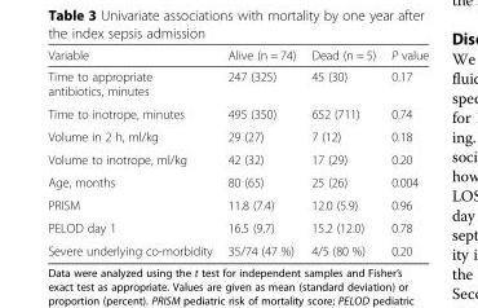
<table><thead><tr><td>Variable</td><td>Alive (n = 74)</td><td>Dead (n = 5)</td><td>P value</td></tr></thead><tbody><tr><td>Time to appropriate antibiotics, minutes</td><td>247 (325)</td><td>45 (30)</td><td>0.17</td></tr><tr><td>Time to inotrope, minutes</td><td>495 (350)</td><td>652 (711)</td><td>0.74</td></tr><tr><td>Volume in 2 h, ml/kg</td><td>29 (27)</td><td>7 (12)</td><td>0.18</td></tr><tr><td>Volume to inotrope, ml/kg</td><td>42 (32)</td><td>17 (29)</td><td>0.20</td></tr><tr><td>Age, months</td><td>80 (65)</td><td>25 (26)</td><td>0.004</td></tr><tr><td>PRISM</td><td>11.8 (7.4)</td><td>12.0 (5.9)</td><td>0.96</td></tr><tr><td>PELOD day 1</td><td>16.5 (9.7)</td><td>15.2 (12.0)</td><td>0.78</td></tr><tr><td>Severe underlying co-morbidity</td><td>35/74 (47 %)</td><td>4/5 (80 %)</td><td>0.20</td></tr></tbody></table>